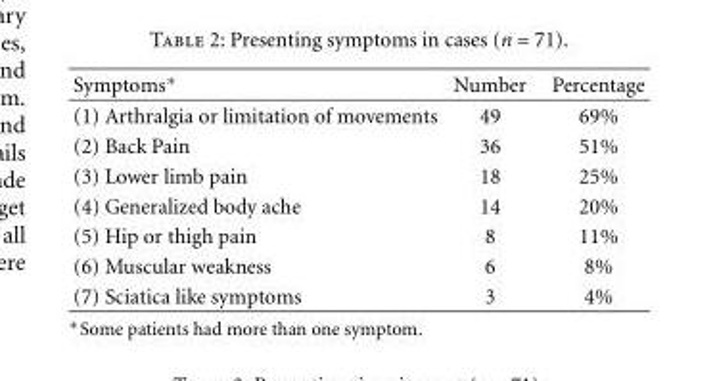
<table><thead><tr><td>Symptoms∗</td><td>Number</td><td>Percentage</td></tr></thead><tbody><tr><td>(1) Arthralgia or limitation of movements</td><td>49</td><td>69%</td></tr><tr><td>(2) Back Pain</td><td>36</td><td>51%</td></tr><tr><td>(3) Lower limb pain</td><td>18</td><td>25%</td></tr><tr><td>(4) Generalized body ache</td><td>14</td><td>20%</td></tr><tr><td>(5) Hip or thigh pain</td><td>8</td><td>11%</td></tr><tr><td>(6) Muscular weakness</td><td>6</td><td>8%</td></tr><tr><td>(7) Sciatica like symptoms</td><td>3</td><td>4%</td></tr></tbody></table>